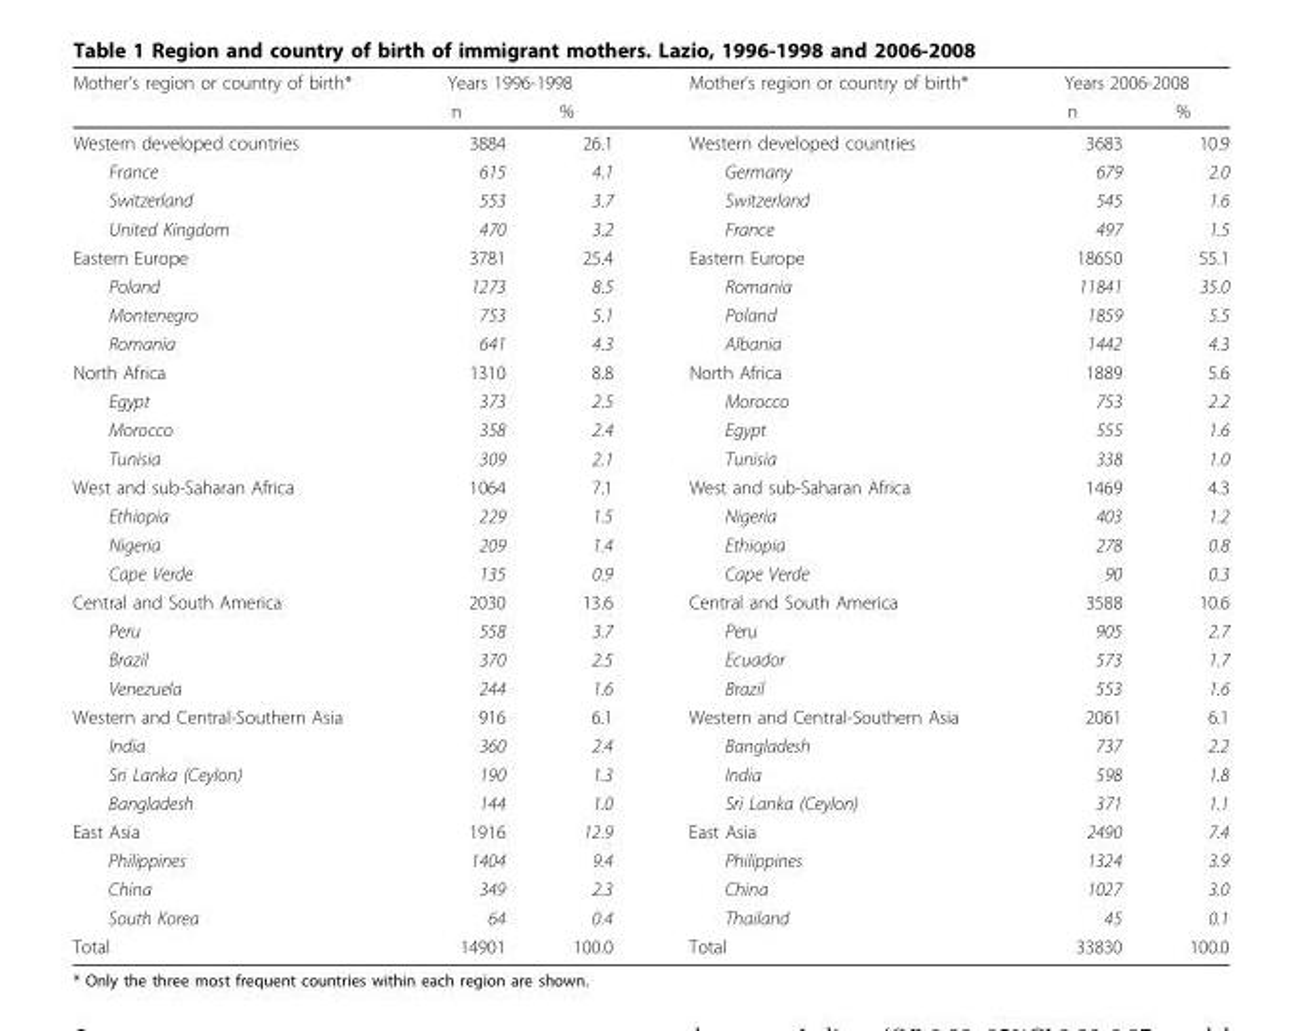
<table><thead><tr><td rowspan="2">Mother’s region or country of birth*</td><td colspan="2">Years 1996-1998</td><td rowspan="2">Mother’s region or country of birth*</td><td colspan="2">Years 2006-2008</td></tr><tr><td>n</td><td>%</td><td>n</td><td>%</td></tr></thead><tbody><tr><td>Western developed countries</td><td>3884</td><td>26.1</td><td>Western developed countries</td><td>3683</td><td>10.9</td></tr><tr><td>France</td><td>615</td><td>4.1</td><td>Germany</td><td>679</td><td>2.0</td></tr><tr><td>Switzerland</td><td>553</td><td>3.7</td><td>Switzerland</td><td>545</td><td>1.6</td></tr><tr><td>United Kingdom</td><td>470</td><td>3.2</td><td>France</td><td>497</td><td>1.5</td></tr><tr><td>Eastern Europe</td><td>3781</td><td>25.4</td><td>Eastern Europe</td><td>18650</td><td>55.1</td></tr><tr><td>Poland</td><td>1273</td><td>8.5</td><td>Romania</td><td>11841</td><td>35.0</td></tr><tr><td>Montenegro</td><td>753</td><td>5.1</td><td>Poland</td><td>1859</td><td>5.5</td></tr><tr><td>Romania</td><td>641</td><td>4.3</td><td>Albania</td><td>1442</td><td>4.3</td></tr><tr><td>North Africa</td><td>1310</td><td>8.8</td><td>North Africa</td><td>1889</td><td>5.6</td></tr><tr><td>Egypt</td><td>373</td><td>2.5</td><td>Morocco</td><td>753</td><td>2.2</td></tr><tr><td>Morocco</td><td>358</td><td>2.4</td><td>Egypt</td><td>555</td><td>1.6</td></tr><tr><td>Tunisia</td><td>309</td><td>2.1</td><td>Tunisia</td><td>338</td><td>1.0</td></tr><tr><td>West and sub-Saharan Africa</td><td>1064</td><td>7.1</td><td>West and sub-Saharan Africa</td><td>1469</td><td>4.3</td></tr><tr><td>Ethiopia</td><td>229</td><td>1.5</td><td>Nigeria</td><td>403</td><td>1.2</td></tr><tr><td>Nigeria</td><td>209</td><td>1.4</td><td>Ethiopia</td><td>278</td><td>0.8</td></tr><tr><td>Cape Verde</td><td>135</td><td>0.9</td><td>Cape Verde</td><td>90</td><td>0.3</td></tr><tr><td>Central and South America</td><td>2030</td><td>13.6</td><td>Central and South America</td><td>3588</td><td>10.6</td></tr><tr><td>Peru</td><td>558</td><td>3.7</td><td>Peru</td><td>905</td><td>2.7</td></tr><tr><td>Brazil</td><td>370</td><td>2.5</td><td>Ecuador</td><td>573</td><td>1.7</td></tr><tr><td>Venezuela</td><td>244</td><td>1.6</td><td>Brazil</td><td>553</td><td>1.6</td></tr><tr><td>Western and Central-Southern Asia</td><td>916</td><td>6.1</td><td>Western and Central-Southern Asia</td><td>2061</td><td>6.1</td></tr><tr><td>India</td><td>360</td><td>2.4</td><td>Bangladesh</td><td>737</td><td>2.2</td></tr><tr><td>Sri Lanka (Ceylon)</td><td>190</td><td>1.3</td><td>India</td><td>598</td><td>1.8</td></tr><tr><td>Bangladesh</td><td>144</td><td>1.0</td><td>Sri Lanka (Ceylon)</td><td>371</td><td>1.1</td></tr><tr><td>East Asia</td><td>1916</td><td>12.9</td><td>East Asia</td><td>2490</td><td>7.4</td></tr><tr><td>Philippines</td><td>1404</td><td>9.4</td><td>Philippines</td><td>1324</td><td>3.9</td></tr><tr><td>China</td><td>349</td><td>2.3</td><td>China</td><td>1027</td><td>3.0</td></tr><tr><td>South Korea</td><td>64</td><td>0.4</td><td>Thailand</td><td>45</td><td>0.1</td></tr><tr><td>Total</td><td>14901</td><td>100.0</td><td>Total</td><td>33830</td><td>100.0</td></tr></tbody></table>